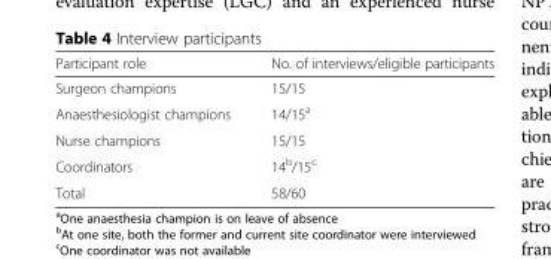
<table><thead><tr><td>Participant role</td><td>No. of interviews/eligible participants</td></tr></thead><tbody><tr><td>Surgeon champions</td><td>15/15</td></tr><tr><td>Anaesthesiologist champions</td><td>14/15<sup>a</sup></td></tr><tr><td>Nurse champions</td><td>15/15</td></tr><tr><td>Coordinators</td><td>14<sup>b</sup>/15<sup>c</sup></td></tr><tr><td>Total</td><td>58/60</td></tr></tbody></table>